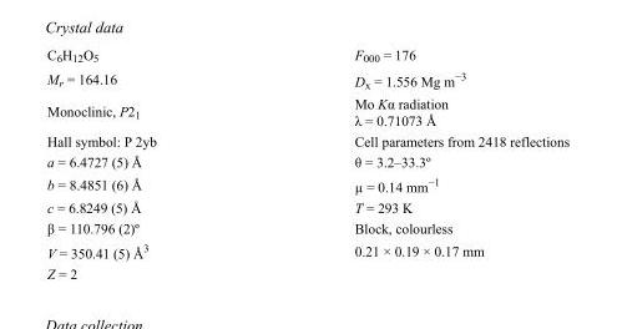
<table><tbody><tr><td>C<sub>6</sub>H<sub>12</sub>O<sub>5</sub></td><td>F000 = 176</td></tr><tr><td>M<sub>r</sub> = 164.16</td><td>D<sub>x</sub> = 1.556 Mg m<sup>−3</sup></td></tr><tr><td>Monoclinic, P2<sub>1</sub></td><td>Mo Kα radiation λ = 0.71073 Å</td></tr><tr><td>Hall symbol: P 2yb</td><td>Cell parameters from 2418 reflections</td></tr><tr><td>a = 6.4727 (5) Å</td><td>θ = 3.2–33.3º</td></tr><tr><td>b = 8.4851 (6) Å</td><td>µ = 0.14 mm<sup>−1</sup></td></tr><tr><td>c = 6.8249 (5) Å</td><td>T = 293 K</td></tr><tr><td>β = 110.796 (2)º</td><td>Block, colourless</td></tr><tr><td>V = 350.41 (5) Å<sup>3</sup></td><td>0.21 × 0.19 × 0.17 mm</td></tr><tr><td>Z = 2</td><td></td></tr></tbody></table>